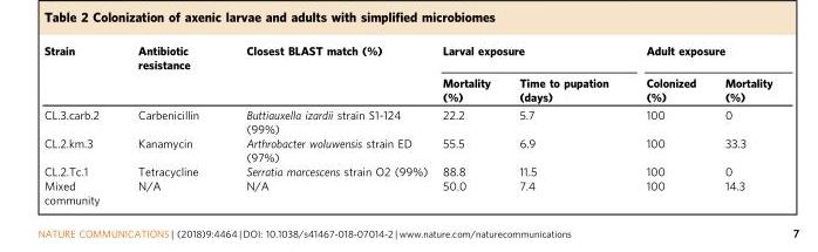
<table><thead><tr><td rowspan="2">Strain</td><td rowspan="2">Antibiotic resistance</td><td rowspan="2">Closest BLAST match (%)</td><td colspan="2">Larval exposure</td><td colspan="2">Adult exposure</td></tr><tr><td>Mortality (%)</td><td>Time to pupation (days)</td><td>Colonized (%)</td><td>Mortality (%)</td></tr></thead><tbody><tr><td>CL.3.carb.2</td><td>Carbenicillin</td><td>Buttiauxella izardii strain S1-124 (99%)</td><td>22.2</td><td>5.7</td><td>100</td><td>0</td></tr><tr><td>CL.2.km.3</td><td>Kanamycin</td><td>Arthrobacter woluwensis strain ED (97%)</td><td>55.5</td><td>6.9</td><td>100</td><td>33.3</td></tr><tr><td>CL.2.Tc.1</td><td>Tetracycline</td><td>Serratia marcescens strain O2 (99%)</td><td>88.8</td><td>11.5</td><td>100</td><td>0</td></tr><tr><td>Mixed community</td><td>N/A</td><td>N/A</td><td>50.0</td><td>7.4</td><td>100</td><td>14.3</td></tr></tbody></table>